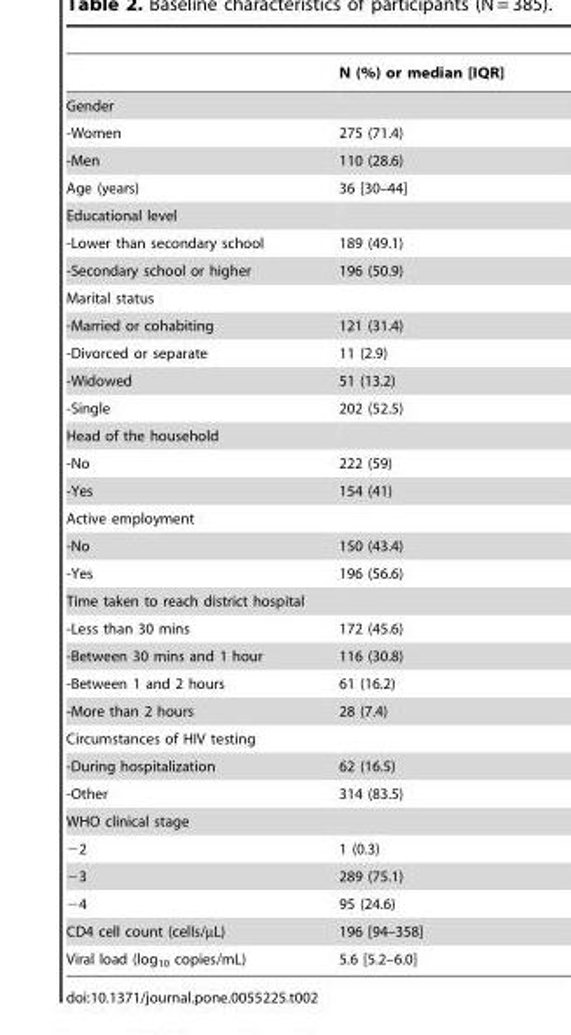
<table><thead><tr><td></td><td>N (%) or median [IQR]</td></tr></thead><tbody><tr><td colspan="2">Gender</td></tr><tr><td>-Women</td><td>275 (71.4)</td></tr><tr><td>-Men</td><td>110 (28.6)</td></tr><tr><td>Age (years)</td><td>36 [30–44]</td></tr><tr><td colspan="2">Educational level</td></tr><tr><td>-Lower than secondary school</td><td>189 (49.1)</td></tr><tr><td>-Secondary school or higher</td><td>196 (50.9)</td></tr><tr><td colspan="2">Marital status</td></tr><tr><td>-Married or cohabiting</td><td>121 (31.4)</td></tr><tr><td>-Divorced or separate</td><td>11 (2.9)</td></tr><tr><td>-Widowed</td><td>51 (13.2)</td></tr><tr><td>-Single</td><td>202 (52.5)</td></tr><tr><td colspan="2">Head of the household</td></tr><tr><td>-No</td><td>222 (59)</td></tr><tr><td>-Yes</td><td>154 (41)</td></tr><tr><td colspan="2">Active employment</td></tr><tr><td>-No</td><td>150 (43.4)</td></tr><tr><td>-Yes</td><td>196 (56.6)</td></tr><tr><td colspan="2">Time taken to reach district hospital</td></tr><tr><td>-Less than 30 mins</td><td>172 (45.6)</td></tr><tr><td>-Between 30 mins and 1 hour</td><td>116 (30.8)</td></tr><tr><td>-Between 1 and 2 hours</td><td>61 (16.2)</td></tr><tr><td>-More than 2 hours</td><td>28 (7.4)</td></tr><tr><td colspan="2">Circumstances of HIV testing</td></tr><tr><td>-During hospitalization</td><td>62 (16.5)</td></tr><tr><td>-Other</td><td>314 (83.5)</td></tr><tr><td colspan="2">WHO clinical stage</td></tr><tr><td>−2</td><td>1 (0.3)</td></tr><tr><td>−3</td><td>289 (75.1)</td></tr><tr><td>−4</td><td>95 (24.6)</td></tr><tr><td>CD4 cell count (cells/µL)</td><td>196 [94–358]</td></tr><tr><td>Viral load (log<sub>10</sub> copies/mL)</td><td>5.6 [5.2–6.0]</td></tr></tbody></table>